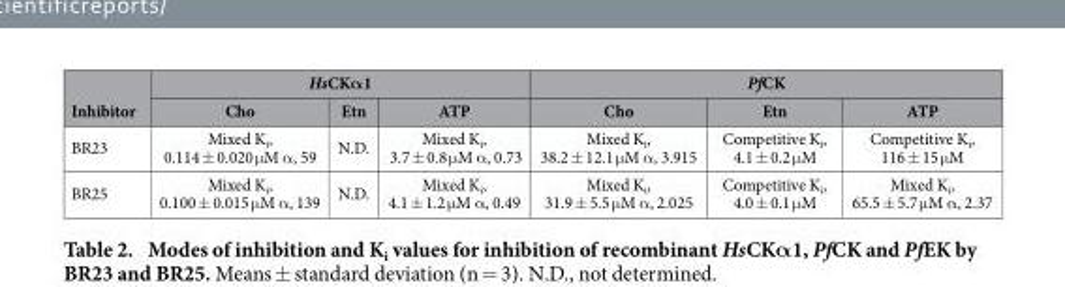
<table><thead><tr><td rowspan="2">Inhibitor</td><td colspan="3">HsCKα1</td><td colspan="3">PfCK</td></tr><tr><td>Cho</td><td>Etn</td><td>ATP</td><td>Cho</td><td>Etn</td><td>ATP</td></tr></thead><tbody><tr><td>BR23</td><td>Mixed K<sub>i</sub>, 0.114 ± 0.020 μ M α , 59</td><td>N.D.</td><td>Mixed K<sub>i</sub>, 3.7 ± 0.8 μ M α , 0.73</td><td>Mixed K<sub>i</sub>, 38.2 ± 12.1 μ M α , 3.915</td><td>Competitive K<sub>i</sub>, 4.1 ± 0.2 μ M</td><td>Competitive K<sub>i</sub>, 116 ± 15 μ M</td></tr><tr><td>BR25</td><td>Mixed K<sub>i</sub>, 0.100 ± 0.015 μ M α , 139</td><td>N.D.</td><td>Mixed K<sub>i</sub>, 4.1 ± 1.2 μ M α , 0.49</td><td>Mixed K<sub>i</sub>, 31.9 ± 5.5 μ M α , 2.025</td><td>Competitive K<sub>i</sub>, 4.0 ± 0.1 μ M</td><td>Mixed K<sub>i</sub>, 65.5 ± 5.7 μ M α , 2.37</td></tr></tbody></table>